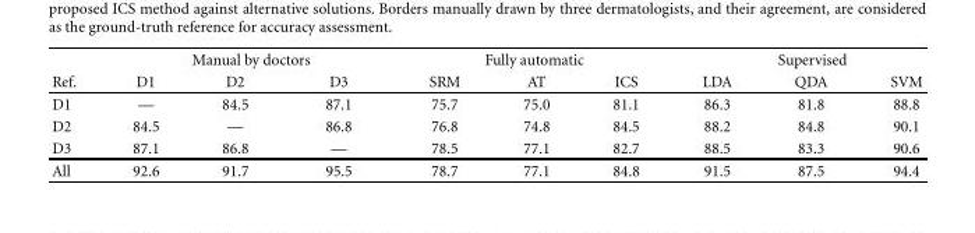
<table><thead><tr><td rowspan="2">Ref.</td><td colspan="3">Manual by doctors</td><td colspan="3">Fully automatic</td><td colspan="3">Supervised</td></tr><tr><td>D1</td><td>D2</td><td>D3</td><td>SRM</td><td>AT</td><td>ICS</td><td>LDA</td><td>QDA</td><td>SVM</td></tr></thead><tbody><tr><td>D1</td><td>—</td><td>84.5</td><td>87.1</td><td>75.7</td><td>75.0</td><td>81.1</td><td>86.3</td><td>81.8</td><td>88.8</td></tr><tr><td>D2</td><td>84.5</td><td>—</td><td>86.8</td><td>76.8</td><td>74.8</td><td>84.5</td><td>88.2</td><td>84.8</td><td>90.1</td></tr><tr><td>D3</td><td>87.1</td><td>86.8</td><td>—</td><td>78.5</td><td>77.1</td><td>82.7</td><td>88.5</td><td>83.3</td><td>90.6</td></tr><tr><td>All</td><td>92.6</td><td>91.7</td><td>95.5</td><td>78.7</td><td>77.1</td><td>84.8</td><td>91.5</td><td>87.5</td><td>94.4</td></tr></tbody></table>